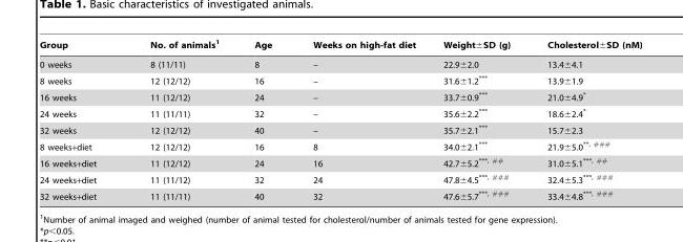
<table><thead><tr><td>Group</td><td>No. of animals<sup>1</sup></td><td>Age</td><td>Weeks on high-fat diet</td><td>Weight±SD (g)</td><td>Cholesterol±SD (nM)</td></tr></thead><tbody><tr><td>0 weeks</td><td>8 (11/11)</td><td>8</td><td>–</td><td>22.9±2.0</td><td>13.4±4.1</td></tr><tr><td>8 weeks</td><td>12 (12/12)</td><td>16</td><td>–</td><td>31.6±1.2***</td><td>13.9±1.9</td></tr><tr><td>16 weeks</td><td>11 (12/12)</td><td>24</td><td>–</td><td>33.7±0.9***</td><td>21.0±4.9*</td></tr><tr><td>24 weeks</td><td>11 (11/11)</td><td>32</td><td>–</td><td>35.6±2.2***</td><td>18.6±2.4*</td></tr><tr><td>32 weeks</td><td>12 (12/12)</td><td>40</td><td>–</td><td>35.7±2.1***</td><td>15.7±2.3</td></tr><tr><td>8 weeks+diet</td><td>12 (12/12)</td><td>16</td><td>8</td><td>34.0±2.1***</td><td>21.9±5.0**, ###</td></tr><tr><td>16 weeks+diet</td><td>11 (12/12)</td><td>24</td><td>16</td><td>42.7±5.2***, ##</td><td>31.0±5.1***, ##</td></tr><tr><td>24 weeks+diet</td><td>11 (11/12)</td><td>32</td><td>24</td><td>47.8±4.5***, ###</td><td>32.4±5.3***, ###</td></tr><tr><td>32 weeks+diet</td><td>11 (11/11)</td><td>40</td><td>32</td><td>47.6±5.7***, ###</td><td>33.4±4.8***, ###</td></tr></tbody></table>